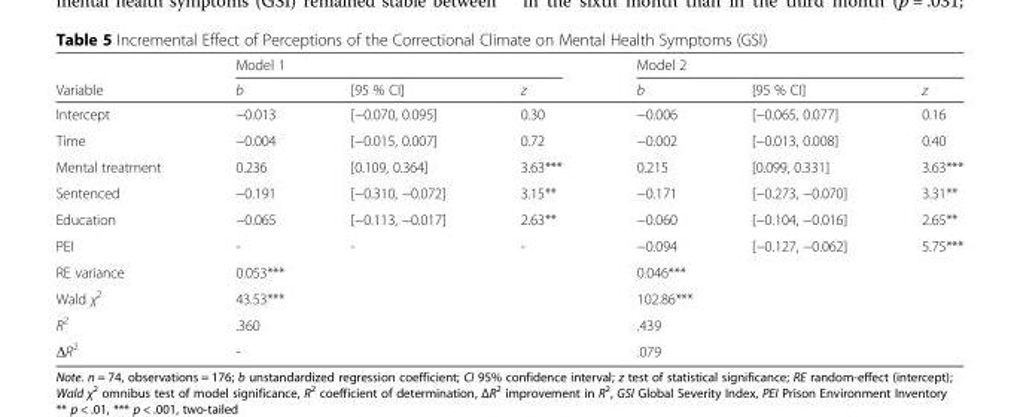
<table><thead><tr><td rowspan="2">Variable</td><td colspan="3">Model 1</td><td colspan="3">Model 2</td></tr><tr><td>b</td><td>[95 % CI]</td><td>z</td><td>b</td><td>[95 % CI]</td><td>z</td></tr></thead><tbody><tr><td>Intercept</td><td>−0.013</td><td>[−0.070, 0.095]</td><td>0.30</td><td>−0.006</td><td>[−0.065, 0.077]</td><td>0.16</td></tr><tr><td>Time</td><td>−0.004</td><td>[−0.015, 0.007]</td><td>0.72</td><td>−0.002</td><td>[−0.013, 0.008]</td><td>0.40</td></tr><tr><td>Mental treatment</td><td>0.236</td><td>[0.109, 0.364]</td><td>3.63***</td><td>0.215</td><td>[0.099, 0.331]</td><td>3.63***</td></tr><tr><td>Sentenced</td><td>−0.191</td><td>[−0.310, −0.072]</td><td>3.15**</td><td>−0.171</td><td>[−0.273, −0.070]</td><td>3.31**</td></tr><tr><td>Education</td><td>−0.065</td><td>[−0.113, −0.017]</td><td>2.63**</td><td>−0.060</td><td>[−0.104, −0.016]</td><td>2.65**</td></tr><tr><td>PEI</td><td>-</td><td>-</td><td>-</td><td>−0.094</td><td>[−0.127, −0.062]</td><td>5.75***</td></tr><tr><td>RE variance</td><td colspan="3">0.053***</td><td colspan="3">0.046***</td></tr><tr><td>Wald χ<sup>2</sup></td><td colspan="3">43.53***</td><td colspan="3">102.86***</td></tr><tr><td>R<sup>2</sup></td><td colspan="3">.360</td><td colspan="3">.439</td></tr><tr><td>ΔR<sup>2</sup></td><td colspan="3">-</td><td colspan="3">.079</td></tr></tbody></table>